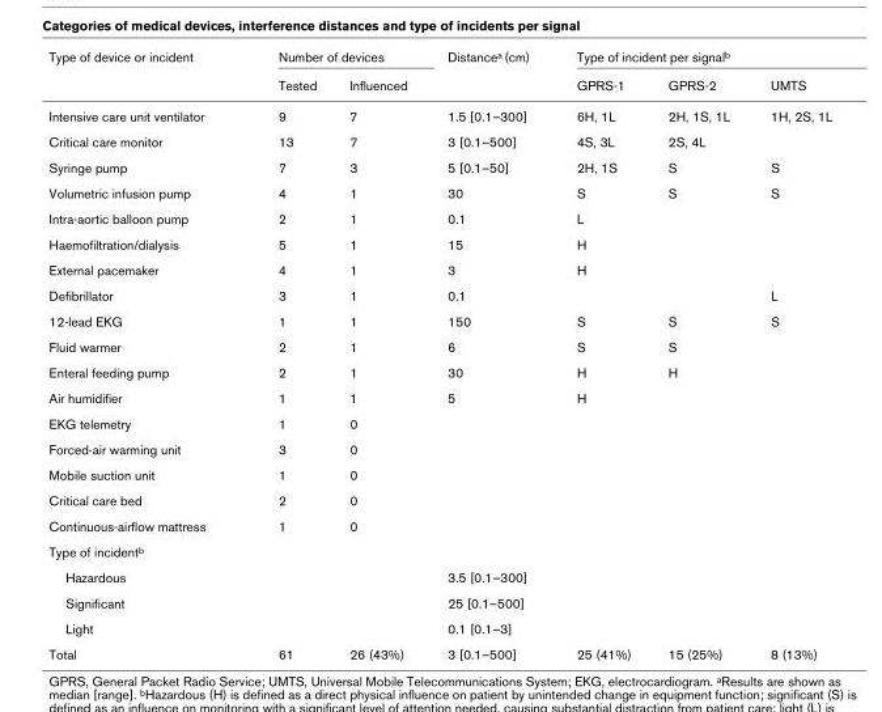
<table><thead><tr><td rowspan="2">Type of device or incident</td><td colspan="2">Number of devices</td><td rowspan="2">Distance<sup>a</sup> (cm)</td><td colspan="3">Type of incident per signal<sup>b</sup></td></tr><tr><td>Tested</td><td>Influenced</td><td>GPRS-1</td><td>GPRS-2</td><td>UMTS</td></tr></thead><tbody><tr><td>Intensive care unit ventilator</td><td>9</td><td>7</td><td>1.5 [0.1–300]</td><td>6H, 1L</td><td>2H, 1S, 1L</td><td>1H, 2S, 1L</td></tr><tr><td>Critical care monitor</td><td>13</td><td>7</td><td>3 [0.1–500]</td><td>4S, 3L</td><td>2S, 4L</td><td></td></tr><tr><td>Syringe pump</td><td>7</td><td>3</td><td>5 [0.1–50]</td><td>2H, 1S</td><td>S</td><td>S</td></tr><tr><td>Volumetric infusion pump</td><td>4</td><td>1</td><td>30</td><td>S</td><td>S</td><td>S</td></tr><tr><td>Intra-aortic balloon pump</td><td>2</td><td>1</td><td>0.1</td><td>L</td><td></td><td></td></tr><tr><td>Haemofiltration/dialysis</td><td>5</td><td>1</td><td>15</td><td>H</td><td></td><td></td></tr><tr><td>External pacemaker</td><td>4</td><td>1</td><td>3</td><td>H</td><td></td><td></td></tr><tr><td>Defibrillator</td><td>3</td><td>1</td><td>0.1</td><td></td><td></td><td>L</td></tr><tr><td>12-lead EKG</td><td>1</td><td>1</td><td>150</td><td>S</td><td>S</td><td>S</td></tr><tr><td>Fluid warmer</td><td>2</td><td>1</td><td>6</td><td>S</td><td>S</td><td></td></tr><tr><td>Enteral feeding pump</td><td>2</td><td>1</td><td>30</td><td>H</td><td>H</td><td></td></tr><tr><td>Air humidifier</td><td>1</td><td>1</td><td>5</td><td>H</td><td></td><td></td></tr><tr><td>EKG telemetry</td><td>1</td><td>0</td><td></td><td></td><td></td><td></td></tr><tr><td>Forced-air warming unit</td><td>3</td><td>0</td><td></td><td></td><td></td><td></td></tr><tr><td>Mobile suction unit</td><td>1</td><td>0</td><td></td><td></td><td></td><td></td></tr><tr><td>Critical care bed</td><td>2</td><td>0</td><td></td><td></td><td></td><td></td></tr><tr><td>Continuous-airflow mattress</td><td>1</td><td>0</td><td></td><td></td><td></td><td></td></tr><tr><td colspan="7">Type of incident<sup>b</sup></td></tr><tr><td>Hazardous</td><td></td><td></td><td>3.5 [0.1–300]</td><td></td><td></td><td></td></tr><tr><td>Significant</td><td></td><td></td><td>25 [0.1–500]</td><td></td><td></td><td></td></tr><tr><td>Light</td><td></td><td></td><td>0.1 [0.1–3]</td><td></td><td></td><td></td></tr><tr><td>Total</td><td>61</td><td>26 (43%)</td><td>3 [0.1–500]</td><td>25 (41%)</td><td>15 (25%)</td><td>8 (13%)</td></tr></tbody></table>